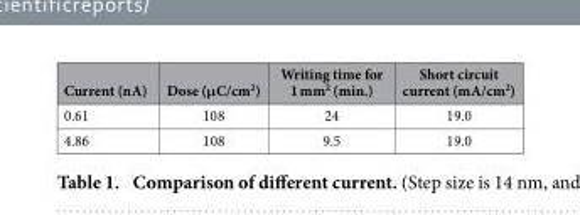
<table><thead><tr><td>Current (nA)</td><td>Dose (μC/cm<sup>2</sup>)</td><td>Writing time for 1 mm<sup>2</sup> (min.)</td><td>Short circuit current (mA/cm<sup>2</sup>)</td></tr></thead><tbody><tr><td>0.61</td><td>108</td><td>24</td><td>19.0</td></tr><tr><td>4.86</td><td>108</td><td>9.5</td><td>19.0</td></tr></tbody></table>